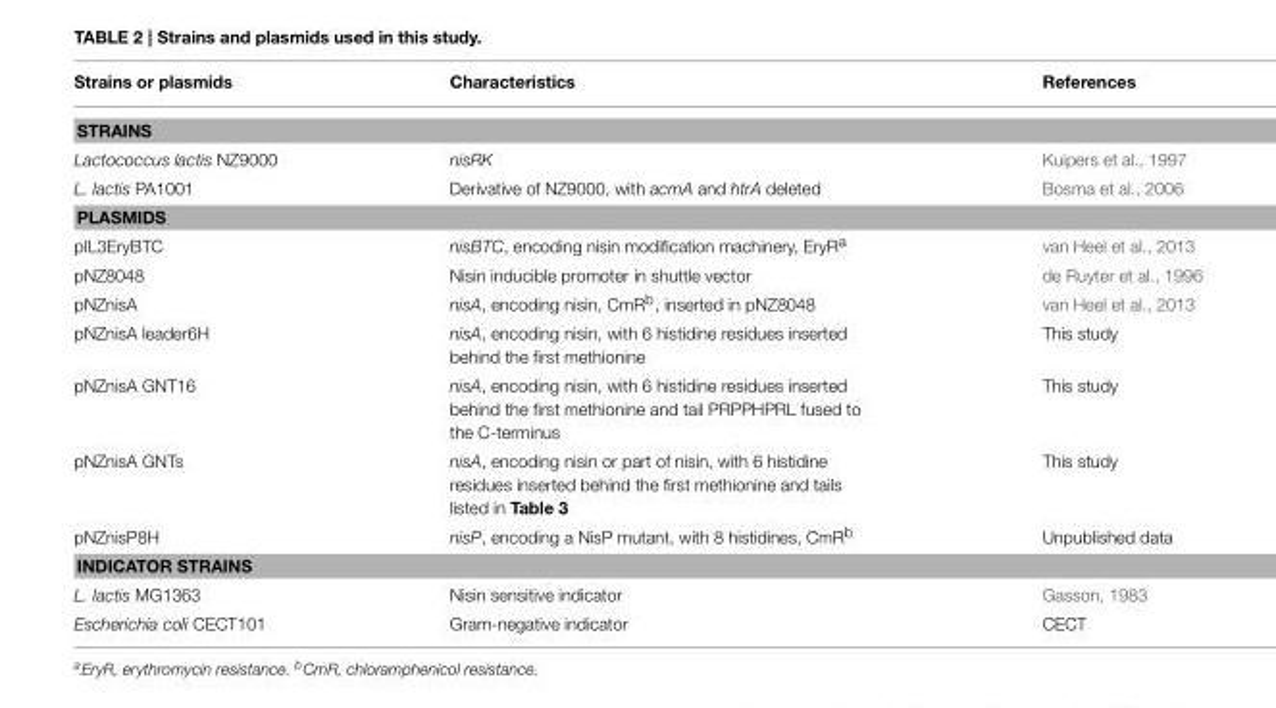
<table><thead><tr><td>Strains or plasmids</td><td>Characteristics</td><td>References</td></tr></thead><tbody><tr><td colspan="3">STRAINS</td></tr><tr><td>Lactococcus lactis NZ9000</td><td>nisRK</td><td>Kuipers et al., 1997</td></tr><tr><td>L. lactis PA1001</td><td>Derivative of NZ9000, with acmA and htrA deleted</td><td>Bosma et al., 2006</td></tr><tr><td colspan="3">PLASMIDS</td></tr><tr><td>pIL3EryBTC</td><td>nisBTC, encoding nisin modification machinery, EryR<sup>a</sup></td><td>van Heel et al., 2013</td></tr><tr><td>pNZ8048</td><td>Nisin inducible promoter in shuttle vector</td><td>de Ruyter et al., 1996</td></tr><tr><td>pNZnisA</td><td>nisA, encoding nisin, CmR<sup>b</sup>, inserted in pNZ8048</td><td>van Heel et al., 2013</td></tr><tr><td>pNZnisA leader6H</td><td>nisA, encoding nisin, with 6 histidine residues inserted behind the first methionine</td><td>This study</td></tr><tr><td>pNZnisA GNT16</td><td>nisA, encoding nisin, with 6 histidine residues inserted behind the first methionine and tail PRPPHPRL fused to the C-terminus</td><td>This study</td></tr><tr><td>pNZnisA GNTs</td><td>nisA, encoding nisin or part of nisin, with 6 histidine residues inserted behind the first methionine and tails listed in Table 3</td><td>This study</td></tr><tr><td>pNZnisP8H</td><td>nisP, encoding a NisP mutant, with 8 histidines, CmR<sup>b</sup></td><td>Unpublished data</td></tr><tr><td colspan="3">INDICATOR STRAINS</td></tr><tr><td>L. lactis MG1363</td><td>Nisin sensitive indicator</td><td>Gasson, 1983</td></tr><tr><td>Escherichia coli CECT101</td><td>Gram-negative indicator</td><td>CECT</td></tr></tbody></table>